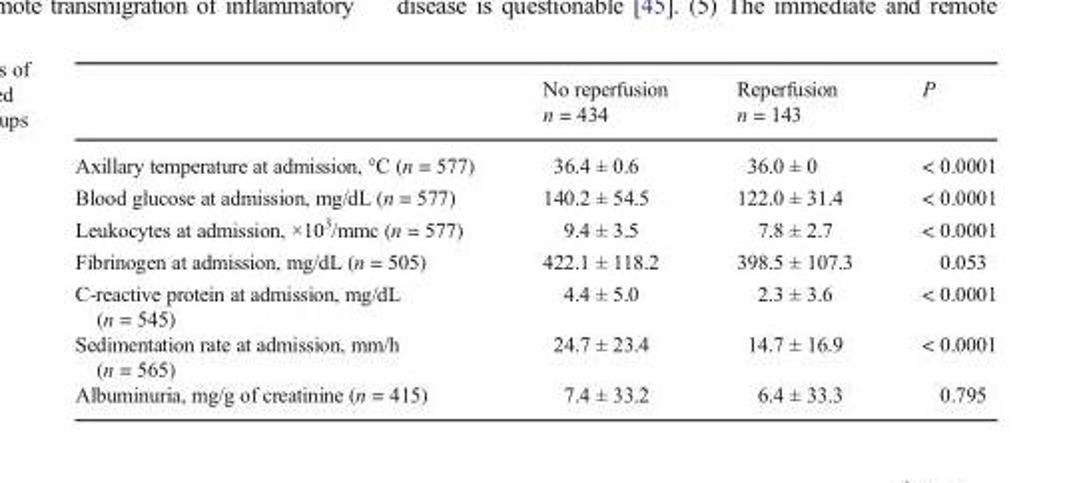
<table><thead><tr><td></td><td>No reperfusion n = 434</td><td>Reperfusion n = 143</td><td>P</td></tr></thead><tbody><tr><td>Axillary temperature at admission, °C (n = 577)</td><td>36.4 ± 0.6</td><td>36.0 ± 0</td><td>&lt; 0.0001</td></tr><tr><td>Blood glucose at admission, mg/dL (n = 577)</td><td>140.2 ± 54.5</td><td>122.0 ± 31.4</td><td>&lt; 0.0001</td></tr><tr><td>Leukocytes at admission, ×10<sup>3</sup>/mmc (n = 577)</td><td>9.4 ± 3.5</td><td>7.8 ± 2.7</td><td>&lt; 0.0001</td></tr><tr><td>Fibrinogen at admission, mg/dL (n = 505)</td><td>422.1 ± 118.2</td><td>398.5 ± 107.3</td><td>0.053</td></tr><tr><td>C-reactive protein at admission, mg/dL (n = 545)</td><td>4.4 ± 5.0</td><td>2.3 ± 3.6</td><td>&lt; 0.0001</td></tr><tr><td>Sedimentation rate at admission, mm/h (n = 565)</td><td>24.7 ± 23.4</td><td>14.7 ± 16.9</td><td>&lt; 0.0001</td></tr><tr><td>Albuminuria, mg/g of creatinine (n = 415)</td><td>7.4 ± 33.2</td><td>6.4 ± 33.3</td><td>0.795</td></tr></tbody></table>